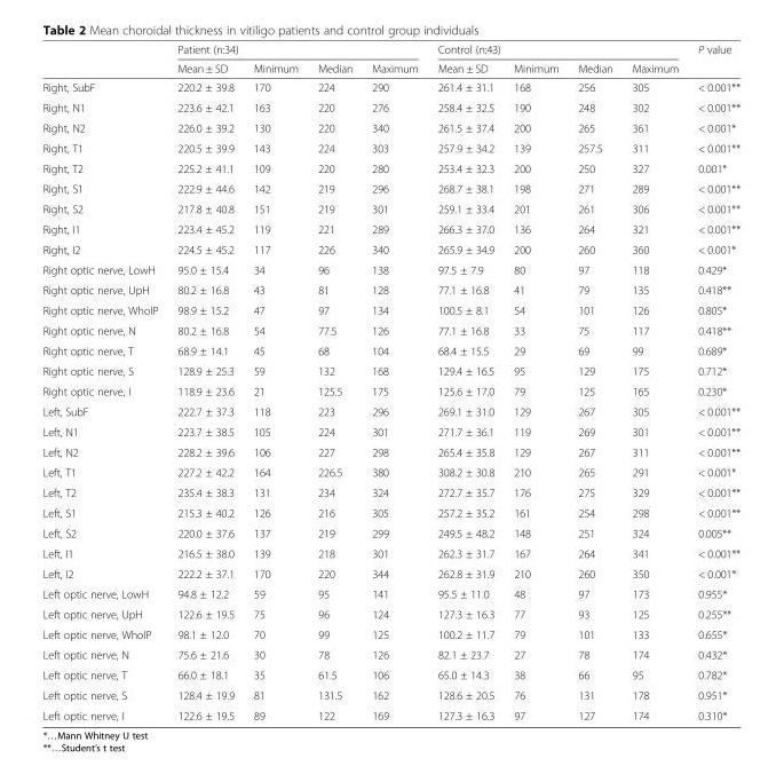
<table><thead><tr><td rowspan="2"></td><td colspan="4">Patient (n:34)</td><td colspan="4">Control (n:43)</td><td rowspan="2">P value</td></tr><tr><td>Mean ± SD</td><td>Minimum</td><td>Median</td><td>Maximum</td><td>Mean ± SD</td><td>Minimum</td><td>Median</td><td>Maximum</td></tr></thead><tbody><tr><td>Right, SubF</td><td>220.2 ± 39.8</td><td>170</td><td>224</td><td>290</td><td>261.4 ± 31.1</td><td>168</td><td>256</td><td>305</td><td>&lt; 0.001**</td></tr><tr><td>Right, N1</td><td>223.6 ± 42.1</td><td>163</td><td>220</td><td>276</td><td>258.4 ± 32.5</td><td>190</td><td>248</td><td>302</td><td>&lt; 0.001**</td></tr><tr><td>Right, N2</td><td>226.0 ± 39.2</td><td>130</td><td>220</td><td>340</td><td>261.5 ± 37.4</td><td>200</td><td>265</td><td>361</td><td>&lt; 0.001*</td></tr><tr><td>Right, T1</td><td>220.5 ± 39.9</td><td>143</td><td>224</td><td>303</td><td>257.9 ± 34.2</td><td>139</td><td>257.5</td><td>311</td><td>&lt; 0.001**</td></tr><tr><td>Right, T2</td><td>225.2 ± 41.1</td><td>109</td><td>220</td><td>280</td><td>253.4 ± 32.3</td><td>200</td><td>250</td><td>327</td><td>0.001*</td></tr><tr><td>Right, S1</td><td>222.9 ± 44.6</td><td>142</td><td>219</td><td>296</td><td>268.7 ± 38.1</td><td>198</td><td>271</td><td>289</td><td>&lt; 0.001**</td></tr><tr><td>Right, S2</td><td>217.8 ± 40.8</td><td>151</td><td>219</td><td>301</td><td>259.1 ± 33.4</td><td>201</td><td>261</td><td>306</td><td>&lt; 0.001**</td></tr><tr><td>Right, I1</td><td>223.4 ± 45.2</td><td>119</td><td>221</td><td>289</td><td>266.3 ± 37.0</td><td>136</td><td>264</td><td>321</td><td>&lt; 0.001**</td></tr><tr><td>Right, I2</td><td>224.5 ± 45.2</td><td>117</td><td>226</td><td>340</td><td>265.9 ± 34.9</td><td>200</td><td>260</td><td>360</td><td>&lt; 0.001*</td></tr><tr><td>Right optic nerve, LowH</td><td>95.0 ± 15.4</td><td>34</td><td>96</td><td>138</td><td>97.5 ± 7.9</td><td>80</td><td>97</td><td>118</td><td>0.429*</td></tr><tr><td>Right optic nerve, UpH</td><td>80.2 ± 16.8</td><td>43</td><td>81</td><td>128</td><td>77.1 ± 16.8</td><td>41</td><td>79</td><td>135</td><td>0.418**</td></tr><tr><td>Right optic nerve, WholP</td><td>98.9 ± 15.2</td><td>47</td><td>97</td><td>134</td><td>100.5 ± 8.1</td><td>54</td><td>101</td><td>126</td><td>0.805*</td></tr><tr><td>Right optic nerve, N</td><td>80.2 ± 16.8</td><td>54</td><td>77.5</td><td>126</td><td>77.1 ± 16.8</td><td>33</td><td>75</td><td>117</td><td>0.418**</td></tr><tr><td>Right optic nerve, T</td><td>68.9 ± 14.1</td><td>45</td><td>68</td><td>104</td><td>68.4 ± 15.5</td><td>29</td><td>69</td><td>99</td><td>0.689*</td></tr><tr><td>Right optic nerve, S</td><td>128.9 ± 25.3</td><td>59</td><td>132</td><td>168</td><td>129.4 ± 16.5</td><td>95</td><td>129</td><td>175</td><td>0.712*</td></tr><tr><td>Right optic nerve, I</td><td>118.9 ± 23.6</td><td>21</td><td>125.5</td><td>175</td><td>125.6 ± 17.0</td><td>79</td><td>125</td><td>165</td><td>0.230*</td></tr><tr><td>Left, SubF</td><td>222.7 ± 37.3</td><td>118</td><td>223</td><td>296</td><td>269.1 ± 31.0</td><td>129</td><td>267</td><td>305</td><td>&lt; 0.001**</td></tr><tr><td>Left, N1</td><td>223.7 ± 38.5</td><td>105</td><td>224</td><td>301</td><td>271.7 ± 36.1</td><td>119</td><td>269</td><td>301</td><td>&lt; 0.001**</td></tr><tr><td>Left, N2</td><td>228.2 ± 39.6</td><td>106</td><td>227</td><td>298</td><td>265.4 ± 35.8</td><td>129</td><td>267</td><td>311</td><td>&lt; 0.001**</td></tr><tr><td>Left, T1</td><td>227.2 ± 42.2</td><td>164</td><td>226.5</td><td>380</td><td>308.2 ± 30.8</td><td>210</td><td>265</td><td>291</td><td>&lt; 0.001*</td></tr><tr><td>Left, T2</td><td>235.4 ± 38.3</td><td>131</td><td>234</td><td>324</td><td>272.7 ± 35.7</td><td>176</td><td>275</td><td>329</td><td>&lt; 0.001**</td></tr><tr><td>Left, S1</td><td>215.3 ± 40.2</td><td>126</td><td>216</td><td>305</td><td>257.2 ± 35.2</td><td>161</td><td>254</td><td>298</td><td>&lt; 0.001**</td></tr><tr><td>Left, S2</td><td>220.0 ± 37.6</td><td>137</td><td>219</td><td>299</td><td>249.5 ± 48.2</td><td>148</td><td>251</td><td>324</td><td>0.005**</td></tr><tr><td>Left, I1</td><td>216.5 ± 38.0</td><td>139</td><td>218</td><td>301</td><td>262.3 ± 31.7</td><td>167</td><td>264</td><td>341</td><td>&lt; 0.001**</td></tr><tr><td>Left, I2</td><td>222.2 ± 37.1</td><td>170</td><td>220</td><td>344</td><td>262.8 ± 31.9</td><td>210</td><td>260</td><td>350</td><td>&lt; 0.001*</td></tr><tr><td>Left optic nerve, LowH</td><td>94.8 ± 12.2</td><td>59</td><td>95</td><td>141</td><td>95.5 ± 11.0</td><td>48</td><td>97</td><td>173</td><td>0.955*</td></tr><tr><td>Left optic nerve, UpH</td><td>122.6 ± 19.5</td><td>75</td><td>96</td><td>124</td><td>127.3 ± 16.3</td><td>77</td><td>93</td><td>125</td><td>0.255**</td></tr><tr><td>Left optic nerve, WholP</td><td>98.1 ± 12.0</td><td>70</td><td>99</td><td>125</td><td>100.2 ± 11.7</td><td>79</td><td>101</td><td>133</td><td>0.655*</td></tr><tr><td>Left optic nerve, N</td><td>75.6 ± 21.6</td><td>30</td><td>78</td><td>126</td><td>82.1 ± 23.7</td><td>27</td><td>78</td><td>174</td><td>0.432*</td></tr><tr><td>Left optic nerve, T</td><td>66.0 ± 18.1</td><td>35</td><td>61.5</td><td>106</td><td>65.0 ± 14.3</td><td>38</td><td>66</td><td>95</td><td>0.782*</td></tr><tr><td>Left optic nerve, S</td><td>128.4 ± 19.9</td><td>81</td><td>131.5</td><td>162</td><td>128.6 ± 20.5</td><td>76</td><td>131</td><td>178</td><td>0.951*</td></tr><tr><td>Left optic nerve, I</td><td>122.6 ± 19.5</td><td>89</td><td>122</td><td>169</td><td>127.3 ± 16.3</td><td>97</td><td>127</td><td>174</td><td>0.310*</td></tr></tbody></table>